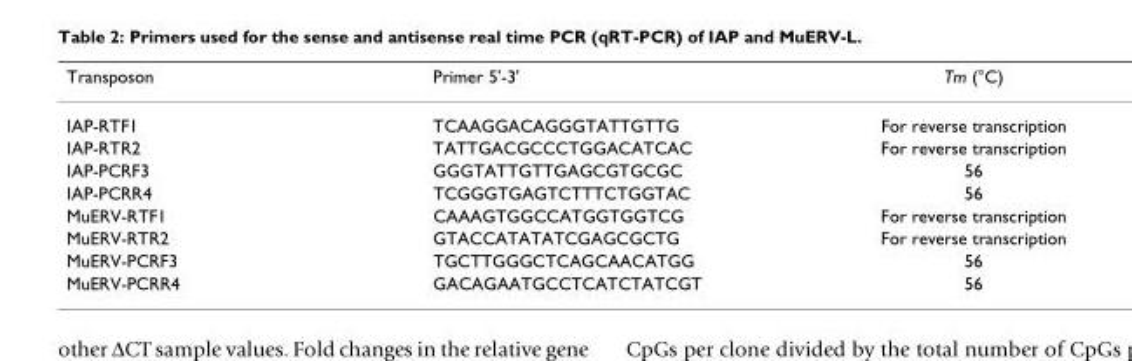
<table><thead><tr><td>Transposon</td><td>Primer 5&#x27;-3&#x27;</td><td>Tm (°C)</td></tr></thead><tbody><tr><td>IAP-RTF1</td><td>TCAAGGACAGGGTATTGTTG</td><td>For reverse transcription</td></tr><tr><td>IAP-RTR2</td><td>TATTGACGCCCTGGACATCAC</td><td>For reverse transcription</td></tr><tr><td>IAP-PCRF3</td><td>GGGTATTGTTGAGCGTGCGC</td><td>56</td></tr><tr><td>IAP-PCRR4</td><td>TCGGGTGAGTCTTTCTGGTAC</td><td>56</td></tr><tr><td>MuERV-RTF1</td><td>CAAAGTGGCCATGGTGGTCG</td><td>For reverse transcription</td></tr><tr><td>MuERV-RTR2</td><td>GTACCATATATCGAGCGCTG</td><td>For reverse transcription</td></tr><tr><td>MuERV-PCRF3</td><td>TGCTTGGGCTCAGCAACATGG</td><td>56</td></tr><tr><td>MuERV-PCRR4</td><td>GACAGAATGCCTCATCTATCGT</td><td>56</td></tr></tbody></table>